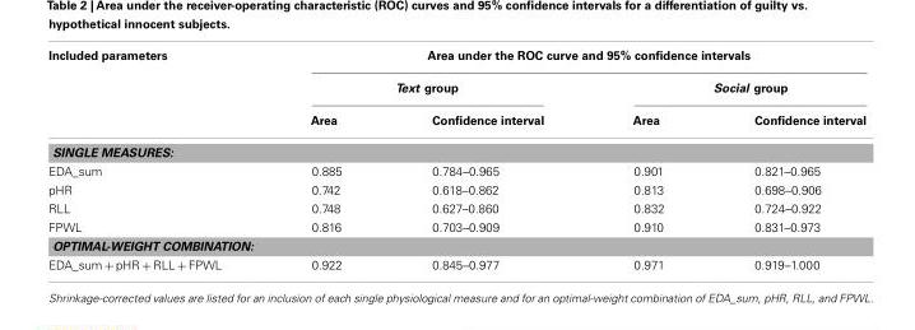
<table><thead><tr><td rowspan="3">Included parameters</td><td colspan="4">Area under the ROC curve and 95% confidence intervals</td></tr><tr><td colspan="2">Text group</td><td colspan="2">Social group</td></tr><tr><td>Area</td><td>Confidence interval</td><td>Area</td><td>Confidence interval</td></tr></thead><tbody><tr><td colspan="5">SINGLE MEASURES:</td></tr><tr><td>EDA_sum</td><td>0.885</td><td>0.784–0.965</td><td>0.901</td><td>0.821–0.965</td></tr><tr><td>pHR</td><td>0.742</td><td>0.618–0.862</td><td>0.813</td><td>0.698–0.906</td></tr><tr><td>RLL</td><td>0.748</td><td>0.627–0.860</td><td>0.832</td><td>0.724–0.922</td></tr><tr><td>FPWL</td><td>0.816</td><td>0.703–0.909</td><td>0.910</td><td>0.831–0.973</td></tr><tr><td colspan="5">OPTIMAL-WEIGHT COMBINATION:</td></tr><tr><td>EDA_sum + pHR + RLL + FPWL</td><td>0.922</td><td>0.845–0.977</td><td>0.971</td><td>0.919–1.000</td></tr></tbody></table>